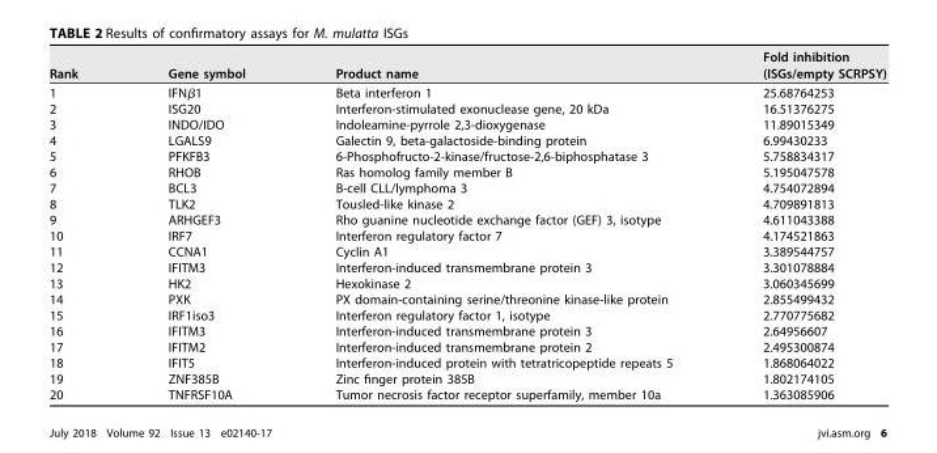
<table><thead><tr><td>Rank</td><td>Gene symbol</td><td>Product name</td><td>Fold inhibition (ISGs/empty SCRPSY)</td></tr></thead><tbody><tr><td>1</td><td>IFNβ1</td><td>Beta interferon 1</td><td>25.68764253</td></tr><tr><td>2</td><td>ISG20</td><td>Interferon-stimulated exonuclease gene, 20 kDa</td><td>16.51376275</td></tr><tr><td>3</td><td>INDO/IDO</td><td>Indoleamine-pyrrole 2,3-dioxygenase</td><td>11.89015349</td></tr><tr><td>4</td><td>LGALS9</td><td>Galectin 9, beta-galactoside-binding protein</td><td>6.99430233</td></tr><tr><td>5</td><td>PFKFB3</td><td>6-Phosphofructo-2-kinase/fructose-2,6-biphosphatase 3</td><td>5.758834317</td></tr><tr><td>6</td><td>RHOB</td><td>Ras homolog family member B</td><td>5.195047578</td></tr><tr><td>7</td><td>BCL3</td><td>B-cell CLL/lymphoma 3</td><td>4.754072894</td></tr><tr><td>8</td><td>TLK2</td><td>Tousled-like kinase 2</td><td>4.709891813</td></tr><tr><td>9</td><td>ARHGEF3</td><td>Rho guanine nucleotide exchange factor (GEF) 3, isotype</td><td>4.611043388</td></tr><tr><td>10</td><td>IRF7</td><td>Interferon regulatory factor 7</td><td>4.174521863</td></tr><tr><td>11</td><td>CCNA1</td><td>Cyclin A1</td><td>3.389544757</td></tr><tr><td>12</td><td>IFITM3</td><td>Interferon-induced transmembrane protein 3</td><td>3.301078884</td></tr><tr><td>13</td><td>HK2</td><td>Hexokinase 2</td><td>3.060345699</td></tr><tr><td>14</td><td>PXK</td><td>PX domain-containing serine/threonine kinase-like protein</td><td>2.855499432</td></tr><tr><td>15</td><td>IRF1iso3</td><td>Interferon regulatory factor 1, isotype</td><td>2.770775682</td></tr><tr><td>16</td><td>IFITM3</td><td>Interferon-induced transmembrane protein 3</td><td>2.64956607</td></tr><tr><td>17</td><td>IFITM2</td><td>Interferon-induced transmembrane protein 2</td><td>2.495300874</td></tr><tr><td>18</td><td>IFIT5</td><td>Interferon-induced protein with tetratricopeptide repeats 5</td><td>1.868064022</td></tr><tr><td>19</td><td>ZNF385B</td><td>Zinc finger protein 385B</td><td>1.802174105</td></tr><tr><td>20</td><td>TNFRSF10A</td><td>Tumor necrosis factor receptor superfamily, member 10a</td><td>1.363085906</td></tr></tbody></table>